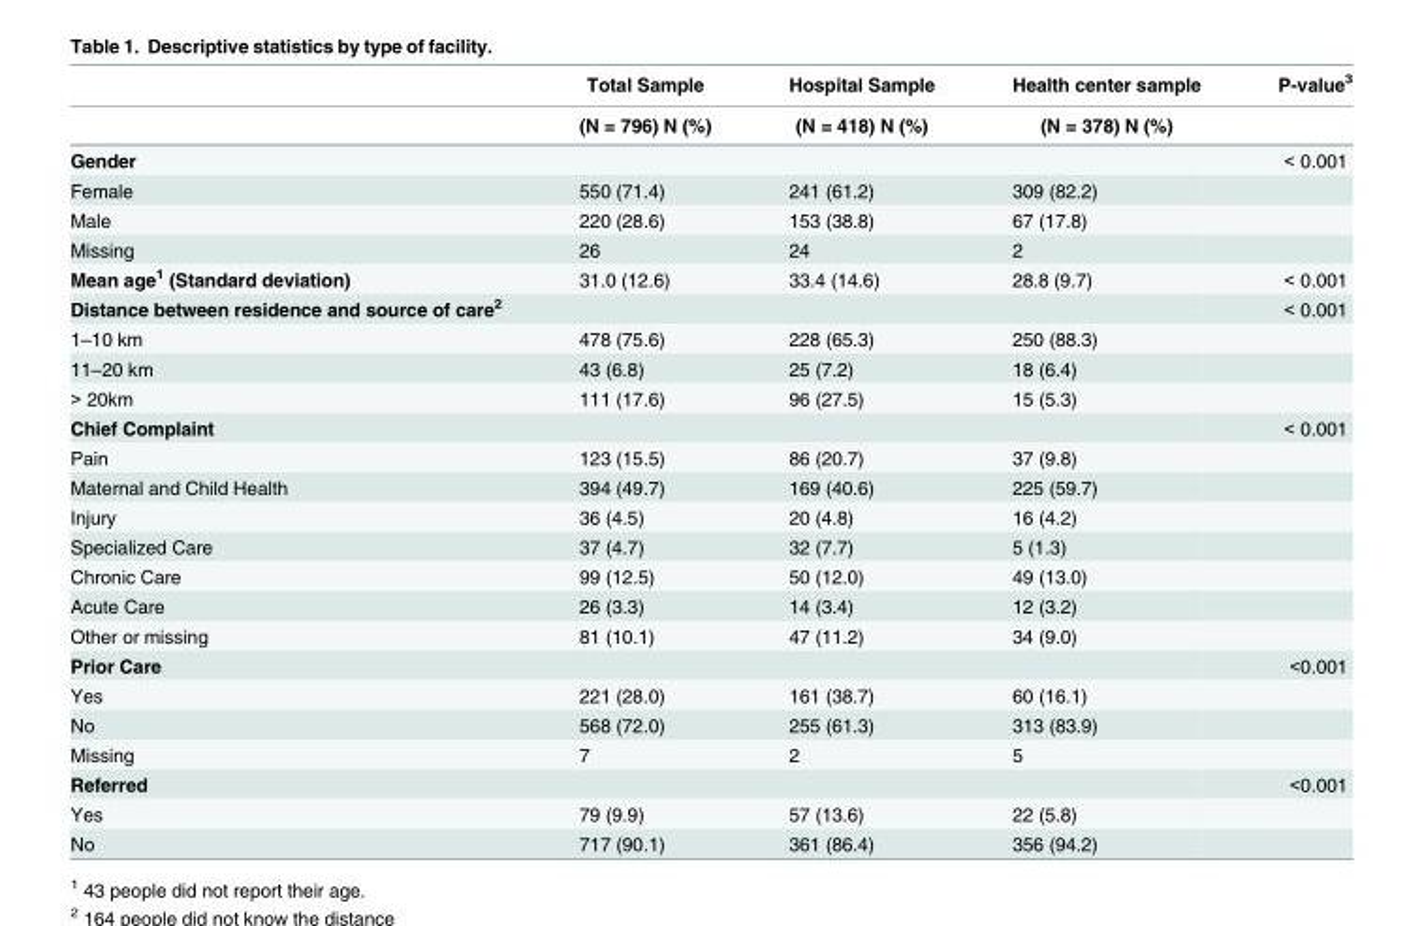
<table><thead><tr><td rowspan="2"></td><td rowspan="2">Total Sample (N = 796) N (%)</td><td rowspan="2">Hospital Sample (N = 418) N (%)</td><td rowspan="2">Health center sample (N = 378) N (%)</td><td rowspan="2">P-value<sup>3</sup></td></tr><tr></tr></thead><tbody><tr><td>Gender</td><td></td><td></td><td></td><td>&lt; 0.001</td></tr><tr><td>Female</td><td>550 (71.4)</td><td>241 (61.2)</td><td>309 (82.2)</td><td></td></tr><tr><td>Male</td><td>220 (28.6)</td><td>153 (38.8)</td><td>67 (17.8)</td><td></td></tr><tr><td>Missing</td><td>26</td><td>24</td><td>2</td><td></td></tr><tr><td>Mean age<sup>1</sup> (Standard deviation)</td><td>31.0 (12.6)</td><td>33.4 (14.6)</td><td>28.8 (9.7)</td><td>&lt; 0.001</td></tr><tr><td>Distance between residence and source of care<sup>2</sup></td><td></td><td></td><td></td><td>&lt; 0.001</td></tr><tr><td>1–10 km</td><td>478 (75.6)</td><td>228 (65.3)</td><td>250 (88.3)</td><td></td></tr><tr><td>11–20 km</td><td>43 (6.8)</td><td>25 (7.2)</td><td>18 (6.4)</td><td></td></tr><tr><td>&gt; 20km</td><td>111 (17.6)</td><td>96 (27.5)</td><td>15 (5.3)</td><td></td></tr><tr><td>Chief Complaint</td><td></td><td></td><td></td><td>&lt; 0.001</td></tr><tr><td>Pain</td><td>123 (15.5)</td><td>86 (20.7)</td><td>37 (9.8)</td><td></td></tr><tr><td>Maternal and Child Health</td><td>394 (49.7)</td><td>169 (40.6)</td><td>225 (59.7)</td><td></td></tr><tr><td>Injury</td><td>36 (4.5)</td><td>20 (4.8)</td><td>16 (4.2)</td><td></td></tr><tr><td>Specialized Care</td><td>37 (4.7)</td><td>32 (7.7)</td><td>5 (1.3)</td><td></td></tr><tr><td>Chronic Care</td><td>99 (12.5)</td><td>50 (12.0)</td><td>49 (13.0)</td><td></td></tr><tr><td>Acute Care</td><td>26 (3.3)</td><td>14 (3.4)</td><td>12 (3.2)</td><td></td></tr><tr><td>Other or missing</td><td>81 (10.1)</td><td>47 (11.2)</td><td>34 (9.0)</td><td></td></tr><tr><td>Prior Care</td><td></td><td></td><td></td><td>&lt;0.001</td></tr><tr><td>Yes</td><td>221 (28.0)</td><td>161 (38.7)</td><td>60 (16.1)</td><td></td></tr><tr><td>No</td><td>568 (72.0)</td><td>255 (61.3)</td><td>313 (83.9)</td><td></td></tr><tr><td>Missing</td><td>7</td><td>2</td><td>5</td><td></td></tr><tr><td>Referred</td><td></td><td></td><td></td><td>&lt;0.001</td></tr><tr><td>Yes</td><td>79 (9.9)</td><td>57 (13.6)</td><td>22 (5.8)</td><td></td></tr><tr><td>No</td><td>717 (90.1)</td><td>361 (86.4)</td><td>356 (94.2)</td><td></td></tr></tbody></table>